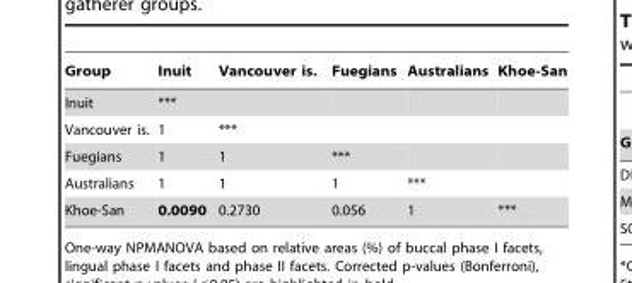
<table><thead><tr><td>Group</td><td>Inuit</td><td>Vancouver is.</td><td>Fuegians</td><td>Australians</td><td>Khoe-San</td></tr></thead><tbody><tr><td>Inuit</td><td>***</td><td></td><td></td><td></td><td></td></tr><tr><td>Vancouver is.</td><td>1</td><td>***</td><td></td><td></td><td></td></tr><tr><td>Fuegians</td><td>1</td><td>1</td><td>***</td><td></td><td></td></tr><tr><td>Australians</td><td>1</td><td>1</td><td>1</td><td>***</td><td></td></tr><tr><td>Khoe-San</td><td>0.0090</td><td>0.2730</td><td>0.056</td><td>1</td><td>***</td></tr></tbody></table>